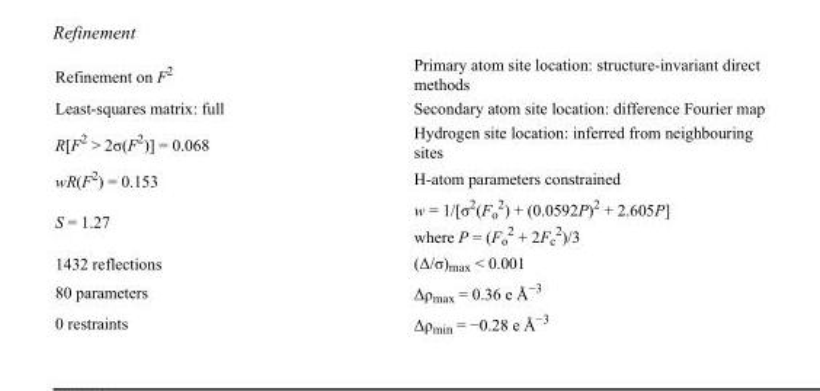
<table><tbody><tr><td>Refinement on F<sup>2</sup></td><td>Primary atom site location: structure-invariant direct methods</td></tr><tr><td>Least-squares matrix: full</td><td>Secondary atom site location: difference Fourier map</td></tr><tr><td>R[F<sup>2</sup> &gt; 2σ(F<sup>2</sup>)] = 0.068</td><td>Hydrogen site location: inferred from neighbouring sites</td></tr><tr><td>wR(F<sup>2</sup>) = 0.153</td><td>H-atom parameters constrained</td></tr><tr><td>S = 1.27</td><td>w = 1/[σ<sup>2</sup>(F<sub>o</sub> <sup>2</sup>) + (0.0592P)<sup>2</sup> + 2.605P] where P = (F<sub>o</sub> <sup>2</sup> + 2F<sub>c</sub> <sup>2</sup>)/3</td></tr><tr><td>1432 reflections</td><td>(Δ/σ)<sub>max</sub> &lt; 0.001</td></tr><tr><td>80 parameters</td><td>Δρ<sub>max</sub> = 0.36 e Å<sup>−3</sup></td></tr><tr><td>0 restraints</td><td>Δρ<sub>min</sub> = −0.28 e Å<sup>−3</sup></td></tr></tbody></table>